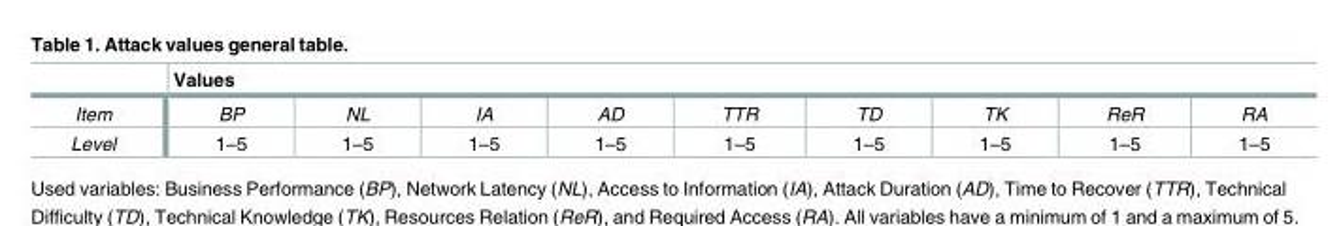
<table><thead><tr><td rowspan="2">Item</td><td colspan="9">Values</td></tr><tr><td>BP</td><td>NL</td><td>IA</td><td>AD</td><td>TTR</td><td>TD</td><td>TK</td><td>ReR</td><td>RA</td></tr></thead><tbody><tr><td>Level</td><td>1–5</td><td>1–5</td><td>1–5</td><td>1–5</td><td>1–5</td><td>1–5</td><td>1–5</td><td>1–5</td><td>1–5</td></tr></tbody></table>